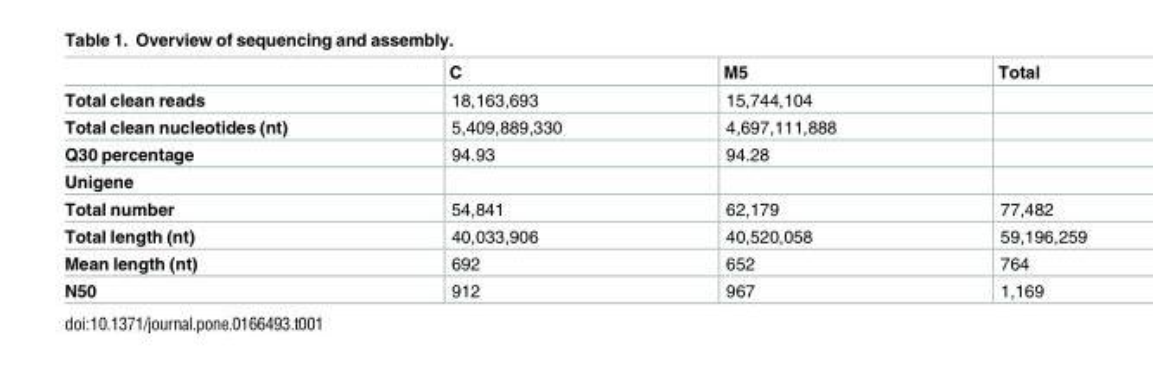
<table><thead><tr><td></td><td>C</td><td>M5</td><td>Total</td></tr></thead><tbody><tr><td>Total clean reads</td><td>18,163,693</td><td>15,744,104</td><td></td></tr><tr><td>Total clean nucleotides (nt)</td><td>5,409,889,330</td><td>4,697,111,888</td><td></td></tr><tr><td>Q30 percentage</td><td>94.93</td><td>94.28</td><td></td></tr><tr><td colspan="4">Unigene</td></tr><tr><td>Total number</td><td>54,841</td><td>62,179</td><td>77,482</td></tr><tr><td>Total length (nt)</td><td>40,033,906</td><td>40,520,058</td><td>59,196,259</td></tr><tr><td>Mean length (nt)</td><td>692</td><td>652</td><td>764</td></tr><tr><td>N50</td><td>912</td><td>967</td><td>1,169</td></tr></tbody></table>